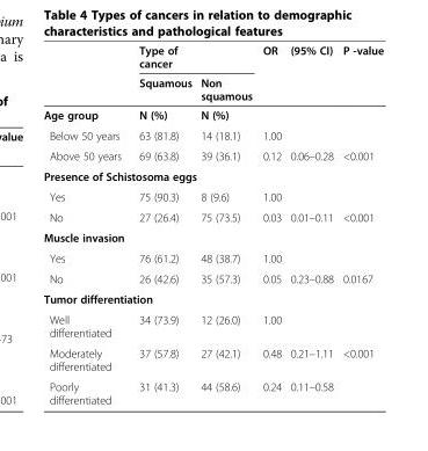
<table><thead><tr><td rowspan="2"></td><td rowspan="2">Type of cancer Squamous</td><td rowspan="2">Non squamous</td><td rowspan="2">OR</td><td rowspan="2">(95% CI)</td><td rowspan="2">P -value</td></tr><tr></tr></thead><tbody><tr><td>Age group</td><td>N (%)</td><td>N (%)</td><td></td><td></td><td></td></tr><tr><td>Below 50 years</td><td>63 (81.8)</td><td>14 (18.1)</td><td>1.00</td><td></td><td></td></tr><tr><td>Above 50 years</td><td>69 (63.8)</td><td>39 (36.1)</td><td>0.12</td><td>0.06–0.28</td><td>&lt;0.001</td></tr><tr><td colspan="6">Presence of Schistosoma eggs</td></tr><tr><td>Yes</td><td>75 (90.3)</td><td>8 (9.6)</td><td>1.00</td><td></td><td></td></tr><tr><td>No</td><td>27 (26.4)</td><td>75 (73.5)</td><td>0.03</td><td>0.01–0.11</td><td>&lt;0.001</td></tr><tr><td colspan="6">Muscle invasion</td></tr><tr><td>Yes</td><td>76 (61.2)</td><td>48 (38.7)</td><td>1.00</td><td></td><td></td></tr><tr><td>No</td><td>26 (42.6)</td><td>35 (57.3)</td><td>0.05</td><td>0.23–0.88</td><td>0.0167</td></tr><tr><td colspan="6">Tumor differentiation</td></tr><tr><td>Well differentiated</td><td>34 (73.9)</td><td>12 (26.0)</td><td>1.00</td><td></td><td></td></tr><tr><td>Moderately differentiated</td><td>37 (57.8)</td><td>27 (42.1)</td><td>0.48</td><td>0.21–1.11</td><td>&lt;0.001</td></tr><tr><td>Poorly differentiated</td><td>31 (41.3)</td><td>44 (58.6)</td><td>0.24</td><td>0.11–0.58</td><td></td></tr></tbody></table>